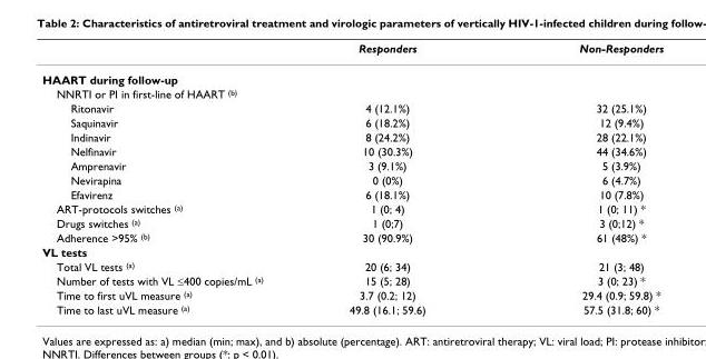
<table><thead><tr><td></td><td>Responders</td><td>Non-Responders</td></tr></thead><tbody><tr><td colspan="3">HAART during follow-up</td></tr><tr><td colspan="3">NNRTI or PI in first-line of HAART <sup>(b)</sup></td></tr><tr><td>Ritonavir</td><td>4 (12.1%)</td><td>32 (25.1%)</td></tr><tr><td>Saquinavir</td><td>6 (18.2%)</td><td>12 (9.4%)</td></tr><tr><td>Indinavir</td><td>8 (24.2%)</td><td>28 (22.1%)</td></tr><tr><td>Nelfinavir</td><td>10 (30.3%)</td><td>44 (34.6%)</td></tr><tr><td>Amprenavir</td><td>3 (9.1%)</td><td>5 (3.9%)</td></tr><tr><td>Nevirapina</td><td>0 (0%)</td><td>6 (4.7%)</td></tr><tr><td>Efavirenz</td><td>6 (18.1%)</td><td>10 (7.8%)</td></tr><tr><td>ART-protocols switches <sup>(a)</sup></td><td>1 (0; 4)</td><td>1 (0; 11) *</td></tr><tr><td>Drugs switches <sup>(a)</sup></td><td>1 (0;7)</td><td>3 (0;12) *</td></tr><tr><td>Adherence &gt;95% <sup>(b)</sup></td><td>30 (90.9%)</td><td>61 (48%) *</td></tr><tr><td colspan="3">VL tests</td></tr><tr><td>Total VL tests <sup>(a)</sup></td><td>20 (6; 34)</td><td>21 (3; 48)</td></tr><tr><td>Number of tests with VL ≤400 copies/mL <sup>(a)</sup></td><td>15 (5; 28)</td><td>3 (0; 23) *</td></tr><tr><td>Time to first uVL measure <sup>(a)</sup></td><td>3.7 (0.2; 12)</td><td>29.4 (0.9; 59.8) *</td></tr><tr><td>Time to last uVL measure <sup>(a)</sup></td><td>49.8 (16.1; 59.6)</td><td>57.5 (31.8; 60) *</td></tr></tbody></table>